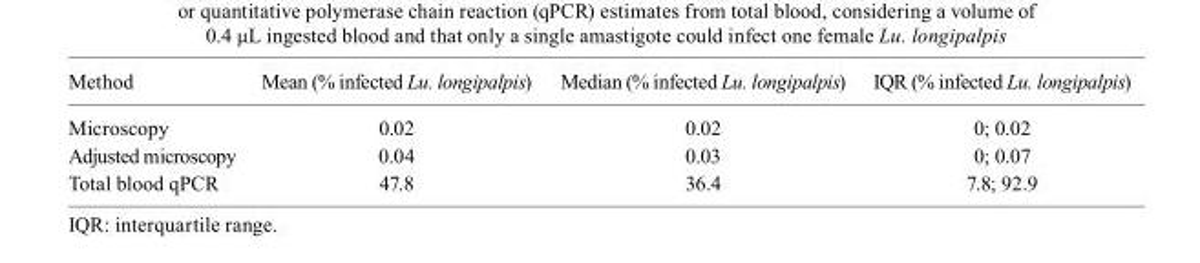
<table><thead><tr><td>Method</td><td>Mean (% infected Lu. longipalpis)</td><td>Median (% infected Lu. longipalpis)</td><td>IQR (% infected Lu. longipalpis)</td></tr></thead><tbody><tr><td>Microscopy</td><td>0.02</td><td>0.02</td><td>0; 0.02</td></tr><tr><td>Adjusted microscopy</td><td>0.04</td><td>0.03</td><td>0; 0.07</td></tr><tr><td>Total blood qPCR</td><td>47.8</td><td>36.4</td><td>7.8; 92.9</td></tr></tbody></table>